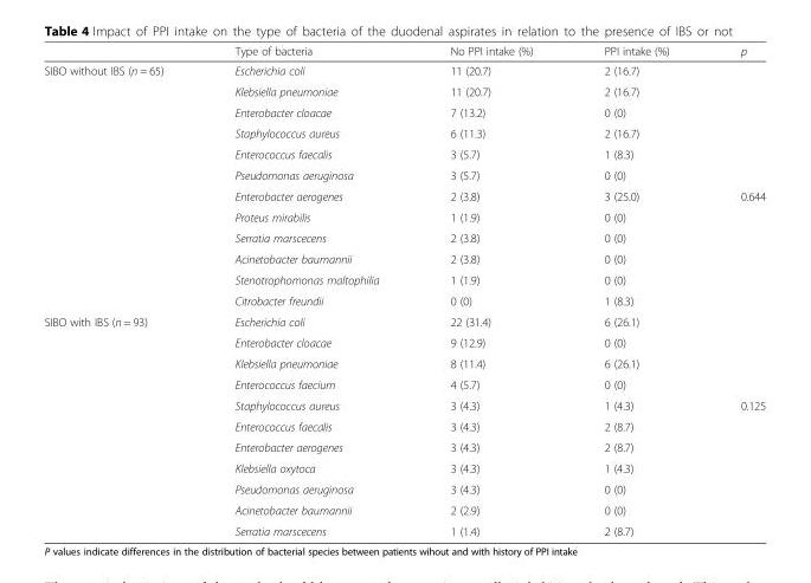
<table><thead><tr><td></td><td>Type of bacteria</td><td>No PPI intake (%)</td><td>PPI intake (%)</td><td>p</td></tr></thead><tbody><tr><td rowspan="12">SIBO without IBS (n = 65)</td><td>Escherichia coli</td><td>11 (20.7)</td><td>2 (16.7)</td><td></td></tr><tr><td>Klebsiella pneumoniae</td><td>11 (20.7)</td><td>2 (16.7)</td><td></td></tr><tr><td>Enterobacter cloacae</td><td>7 (13.2)</td><td>0 (0)</td><td></td></tr><tr><td>Staphylococcus aureus</td><td>6 (11.3)</td><td>2 (16.7)</td><td></td></tr><tr><td>Enterococcus faecalis</td><td>3 (5.7)</td><td>1 (8.3)</td><td></td></tr><tr><td>Pseudomonas aeruginosa</td><td>3 (5.7)</td><td>0 (0)</td><td></td></tr><tr><td>Enterobacter aerogenes</td><td>2 (3.8)</td><td>3 (25.0)</td><td>0.644</td></tr><tr><td>Proteus mirabilis</td><td>1 (1.9)</td><td>0 (0)</td><td></td></tr><tr><td>Serratia marscecens</td><td>2 (3.8)</td><td>0 (0)</td><td></td></tr><tr><td>Acinetobacter baumannii</td><td>2 (3.8)</td><td>0 (0)</td><td></td></tr><tr><td>Stenotrophomonas maltophilia</td><td>1 (1.9)</td><td>0 (0)</td><td></td></tr><tr><td>Citrobacter freundii</td><td>0 (0)</td><td>1 (8.3)</td><td></td></tr><tr><td rowspan="11">SIBO with IBS (n = 93)</td><td>Escherichia coli</td><td>22 (31.4)</td><td>6 (26.1)</td><td></td></tr><tr><td>Enterobacter cloacae</td><td>9 (12.9)</td><td>0 (0)</td><td></td></tr><tr><td>Klebsiella pneumoniae</td><td>8 (11.4)</td><td>6 (26.1)</td><td></td></tr><tr><td>Enterococcus faecium</td><td>4 (5.7)</td><td>0 (0)</td><td></td></tr><tr><td>Staphylococcus aureus</td><td>3 (4.3)</td><td>1 (4.3)</td><td>0.125</td></tr><tr><td>Enterococcus faecalis</td><td>3 (4.3)</td><td>2 (8.7)</td><td></td></tr><tr><td>Enterobacter aerogenes</td><td>3 (4.3)</td><td>2 (8.7)</td><td></td></tr><tr><td>Klebsiella oxytoca</td><td>3 (4.3)</td><td>1 (4.3)</td><td></td></tr><tr><td>Pseudomonas aeruginosa</td><td>3 (4.3)</td><td>0 (0)</td><td></td></tr><tr><td>Acinetobacter baumannii</td><td>2 (2.9)</td><td>0 (0)</td><td></td></tr><tr><td>Serratia marscecens</td><td>1 (1.4)</td><td>2 (8.7)</td><td></td></tr></tbody></table>